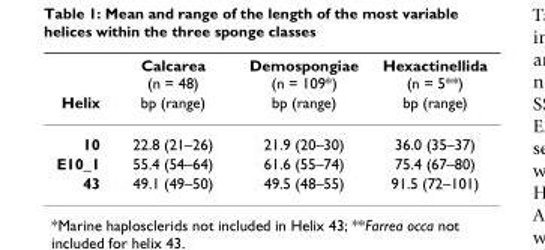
<table><thead><tr><td rowspan="2">Helix</td><td rowspan="2">Calcarea (n = 48) bp (range)</td><td rowspan="2">Demospongiae (n = 109*) bp (range)</td><td rowspan="2">Hexactinellida (n = 5**) bp (range)</td></tr><tr></tr></thead><tbody><tr><td>10</td><td>22.8 (21–26)</td><td>21.9 (20–30)</td><td>36.0 (35–37)</td></tr><tr><td>E10_1</td><td>55.4 (54–64)</td><td>61.6 (55–74)</td><td>75.4 (67–80)</td></tr><tr><td>43</td><td>49.1 (49–50)</td><td>49.5 (48–55)</td><td>91.5 (72–101)</td></tr></tbody></table>